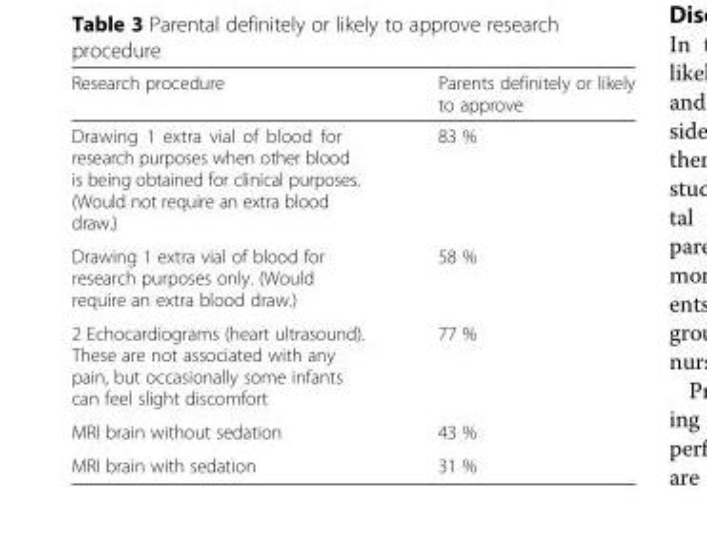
<table><thead><tr><td>Research procedure</td><td>Parents definitely or likely to approve</td></tr></thead><tbody><tr><td>Drawing 1 extra vial of blood for research purposes when other blood is being obtained for clinical purposes. (Would not require an extra blood draw.)</td><td>83 %</td></tr><tr><td>Drawing 1 extra vial of blood for research purposes only. (Would require an extra blood draw.)</td><td>58 %</td></tr><tr><td>2 Echocardiograms (heart ultrasound). These are not associated with any pain, but occasionally some infants can feel slight discomfort</td><td>77 %</td></tr><tr><td>MRI brain without sedation</td><td>43 %</td></tr><tr><td>MRI brain with sedation</td><td>31 %</td></tr></tbody></table>